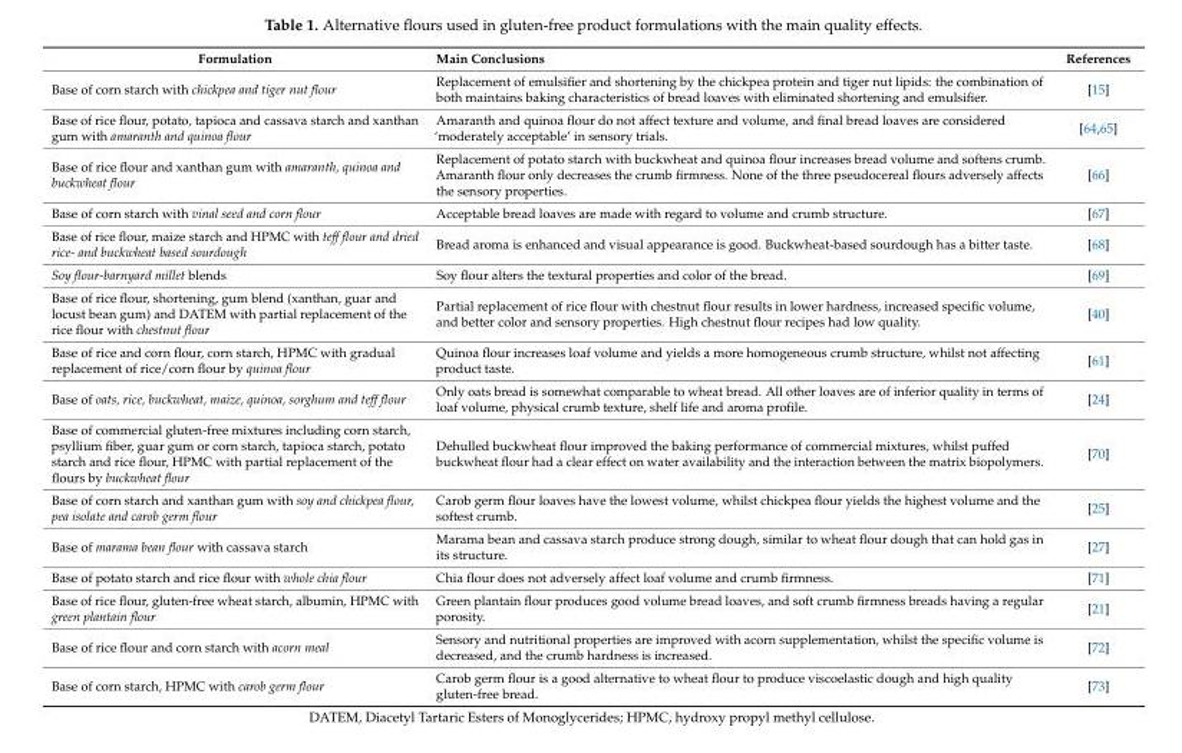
<table><thead><tr><td>Formulation</td><td>Main Conclusions</td><td>References</td></tr></thead><tbody><tr><td>Base of corn starch with chickpea and tiger nut flour</td><td>Replacement of emulsifier and shortening by the chickpea protein and tiger nut lipids: the combination of both maintains baking characteristics of bread loaves with eliminated shortening and emulsifier.</td><td>[15]</td></tr><tr><td>Base of rice flour, potato, tapioca and cassava starch and xanthan gum with amaranth and quinoa flour</td><td>Amaranth and quinoa flour do not affect texture and volume, and final bread loaves are considered ‘moderately acceptable’ in sensory trials.</td><td>[64,65]</td></tr><tr><td>Base of rice flour and xanthan gum with amaranth, quinoa and buckwheat flour</td><td>Replacement of potato starch with buckwheat and quinoa flour increases bread volume and softens crumb. Amaranth flour only decreases the crumb firmness. None of the three pseudocereal flours adversely affects the sensory properties.</td><td>[66]</td></tr><tr><td>Base of corn starch with vinal seed and corn flour</td><td>Acceptable bread loaves are made with regard to volume and crumb structure.</td><td>[67]</td></tr><tr><td>Base of rice flour, maize starch and HPMC with teff flour and dried rice- and buckwheat based sourdough</td><td>Bread aroma is enhanced and visual appearance is good. Buckwheat-based sourdough has a bitter taste.</td><td>[68]</td></tr><tr><td>Soy flour-barnyard millet blends</td><td>Soy flour alters the textural properties and color of the bread.</td><td>[69]</td></tr><tr><td>Base of rice flour, shortening, gum blend (xanthan, guar and locust bean gum) and DATEM with partial replacement of the rice flour with chestnut flour</td><td>Partial replacement of rice flour with chestnut flour results in lower hardness, increased specific volume, and better color and sensory properties. High chestnut flour recipes had low quality.</td><td>[40]</td></tr><tr><td>Base of rice and corn flour, corn starch, HPMC with gradual replacement of rice/corn flour by quinoa flour</td><td>Quinoa flour increases loaf volume and yields a more homogeneous crumb structure, whilst not affecting product taste.</td><td>[61]</td></tr><tr><td>Base of oats, rice, buckwheat, maize, quinoa, sorghum and teff flour</td><td>Only oats bread is somewhat comparable to wheat bread. All other loaves are of inferior quality in terms of loaf volume, physical crumb texture, shelf life and aroma profile.</td><td>[24]</td></tr><tr><td>Base of commercial gluten-free mixtures including corn starch, psyllium fiber, guar gum or corn starch, tapioca starch, potato starch and rice flour, HPMC with partial replacement of the flours by buckwheat flour</td><td>Dehulled buckwheat flour improved the baking performance of commercial mixtures, whilst puffed buckwheat flour had a clear effect on water availability and the interaction between the matrix biopolymers.</td><td>[70]</td></tr><tr><td>Base of corn starch and xanthan gum with soy and chickpea flour, pea isolate and carob germ flour</td><td>Carob germ flour loaves have the lowest volume, whilst chickpea flour yields the highest volume and the softest crumb.</td><td>[25]</td></tr><tr><td>Base of marama bean flour with cassava starch</td><td>Marama bean and cassava starch produce strong dough, similar to wheat flour dough that can hold gas in its structure.</td><td>[27]</td></tr><tr><td>Base of potato starch and rice flour with whole chia flour</td><td>Chia flour does not adversely affect loaf volume and crumb firmness.</td><td>[71]</td></tr><tr><td>Base of rice flour, gluten-free wheat starch, albumin, HPMC with green plantain flour</td><td>Green plantain flour produces good volume bread loaves, and soft crumb firmness breads having a regular porosity.</td><td>[21]</td></tr><tr><td>Base of rice flour and corn starch with acorn meal</td><td>Sensory and nutritional properties are improved with acorn supplementation, whilst the specific volume is decreased, and the crumb hardness is increased.</td><td>[72]</td></tr><tr><td>Base of corn starch, HPMC with carob germ flour</td><td>Carob germ flour is a good alternative to wheat flour to produce viscoelastic dough and high quality gluten-free bread.</td><td>[73]</td></tr></tbody></table>